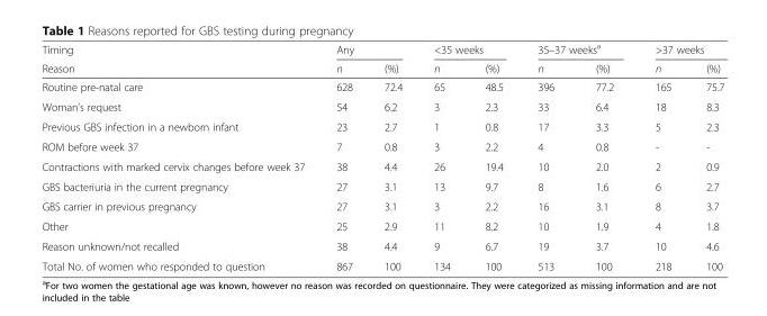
<table><thead><tr><td rowspan="2">Timing Reason</td><td colspan="2">Any</td><td colspan="2">&lt;35 weeks</td><td colspan="2">35–37 weeks<sup>a</sup></td><td colspan="2">&gt;37 weeks</td></tr><tr><td>n</td><td>(%)</td><td>n</td><td>(%)</td><td>n</td><td>(%)</td><td>n</td><td>(%)</td></tr></thead><tbody><tr><td>Routine pre-natal care</td><td>628</td><td>72.4</td><td>65</td><td>48.5</td><td>396</td><td>77.2</td><td>165</td><td>75.7</td></tr><tr><td>Woman’s request</td><td>54</td><td>6.2</td><td>3</td><td>2.3</td><td>33</td><td>6.4</td><td>18</td><td>8.3</td></tr><tr><td>Previous GBS infection in a newborn infant</td><td>23</td><td>2.7</td><td>1</td><td>0.8</td><td>17</td><td>3.3</td><td>5</td><td>2.3</td></tr><tr><td>ROM before week 37</td><td>7</td><td>0.8</td><td>3</td><td>2.2</td><td>4</td><td>0.8</td><td>-</td><td>-</td></tr><tr><td>Contractions with marked cervix changes before week 37</td><td>38</td><td>4.4</td><td>26</td><td>19.4</td><td>10</td><td>2.0</td><td>2</td><td>0.9</td></tr><tr><td>GBS bacteriuria in the current pregnancy</td><td>27</td><td>3.1</td><td>13</td><td>9.7</td><td>8</td><td>1.6</td><td>6</td><td>2.7</td></tr><tr><td>GBS carrier in previous pregnancy</td><td>27</td><td>3.1</td><td>3</td><td>2.2</td><td>16</td><td>3.1</td><td>8</td><td>3.7</td></tr><tr><td>Other</td><td>25</td><td>2.9</td><td>11</td><td>8.2</td><td>10</td><td>1.9</td><td>4</td><td>1.8</td></tr><tr><td>Reason unknown/not recalled</td><td>38</td><td>4.4</td><td>9</td><td>6.7</td><td>19</td><td>3.7</td><td>10</td><td>4.6</td></tr><tr><td>Total No. of women who responded to question</td><td>867</td><td>100</td><td>134</td><td>100</td><td>513</td><td>100</td><td>218</td><td>100</td></tr></tbody></table>